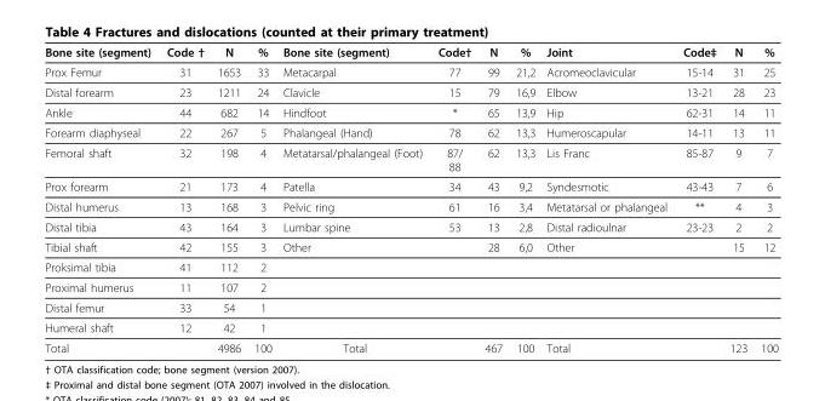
<table><thead><tr><td>Bone site (segment)</td><td>Code †</td><td>N</td><td>%</td><td>Bone site (segment)</td><td>Code†</td><td>N</td><td>%</td><td>Joint</td><td>Code‡</td><td>N</td><td>%</td></tr></thead><tbody><tr><td>Prox Femur</td><td>31</td><td>1653</td><td>33</td><td>Metacarpal</td><td>77</td><td>99</td><td>21,2</td><td>Acromeoclavicular</td><td>15-14</td><td>31</td><td>25</td></tr><tr><td>Distal forearm</td><td>23</td><td>1211</td><td>24</td><td>Clavicle</td><td>15</td><td>79</td><td>16,9</td><td>Elbow</td><td>13-21</td><td>28</td><td>23</td></tr><tr><td>Ankle</td><td>44</td><td>682</td><td>14</td><td>Hindfoot</td><td>*</td><td>65</td><td>13,9</td><td>Hip</td><td>62-31</td><td>14</td><td>11</td></tr><tr><td>Forearm diaphyseal</td><td>22</td><td>267</td><td>5</td><td>Phalangeal (Hand)</td><td>78</td><td>62</td><td>13,3</td><td>Humeroscapular</td><td>14-11</td><td>13</td><td>11</td></tr><tr><td>Femoral shaft</td><td>32</td><td>198</td><td>4</td><td>Metatarsal/phalangeal (Foot)</td><td>87/ 88</td><td>62</td><td>13,3</td><td>Lis Franc</td><td>85-87</td><td>9</td><td>7</td></tr><tr><td>Prox forearm</td><td>21</td><td>173</td><td>4</td><td>Patella</td><td>34</td><td>43</td><td>9,2</td><td>Syndesmotic</td><td>43-43</td><td>7</td><td>6</td></tr><tr><td>Distal humerus</td><td>13</td><td>168</td><td>3</td><td>Pelvic ring</td><td>61</td><td>16</td><td>3,4</td><td>Metatarsal or phalangeal</td><td>**</td><td>4</td><td>3</td></tr><tr><td>Distal tibia</td><td>43</td><td>164</td><td>3</td><td>Lumbar spine</td><td>53</td><td>13</td><td>2,8</td><td>Distal radioulnar</td><td>23-23</td><td>2</td><td>2</td></tr><tr><td>Tibial shaft</td><td>42</td><td>155</td><td>3</td><td>Other</td><td></td><td>28</td><td>6,0</td><td>Other</td><td></td><td>15</td><td>12</td></tr><tr><td>Proksimal tibia</td><td>41</td><td>112</td><td>2</td><td></td><td></td><td></td><td></td><td></td><td></td><td></td><td></td></tr><tr><td>Proximal humerus</td><td>11</td><td>107</td><td>2</td><td></td><td></td><td></td><td></td><td></td><td></td><td></td><td></td></tr><tr><td>Distal femur</td><td>33</td><td>54</td><td>1</td><td></td><td></td><td></td><td></td><td></td><td></td><td></td><td></td></tr><tr><td>Humeral shaft</td><td>12</td><td>42</td><td>1</td><td></td><td></td><td></td><td></td><td></td><td></td><td></td><td></td></tr><tr><td>Total</td><td></td><td>4986</td><td>100</td><td>Total</td><td></td><td>467</td><td>100</td><td>Total</td><td></td><td>123</td><td>100</td></tr></tbody></table>